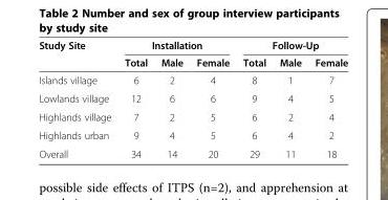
<table><thead><tr><td rowspan="2">Study Site</td><td colspan="3">Installation</td><td colspan="3">Follow-Up</td></tr><tr><td>Total</td><td>Male</td><td>Female</td><td>Total</td><td>Male</td><td>Female</td></tr></thead><tbody><tr><td>Islands village</td><td>6</td><td>2</td><td>4</td><td>8</td><td>1</td><td>7</td></tr><tr><td>Lowlands village</td><td>12</td><td>6</td><td>6</td><td>9</td><td>4</td><td>5</td></tr><tr><td>Highlands village</td><td>7</td><td>2</td><td>5</td><td>6</td><td>2</td><td>4</td></tr><tr><td>Highlands urban</td><td>9</td><td>4</td><td>5</td><td>6</td><td>4</td><td>2</td></tr><tr><td>Overall</td><td>34</td><td>14</td><td>20</td><td>29</td><td>11</td><td>18</td></tr></tbody></table>